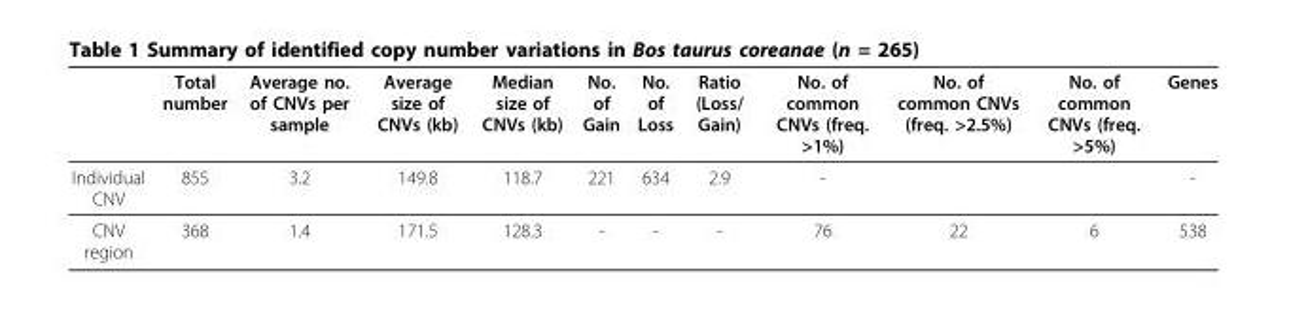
<table><thead><tr><td></td><td>Total number</td><td>Average no. of CNVs per sample</td><td>Average size of CNVs (kb)</td><td>Median size of CNVs (kb)</td><td>No. of Gain</td><td>No. of Loss</td><td>Ratio (Loss/ Gain)</td><td>No. of common CNVs (freq. &gt;1%)</td><td>No. of common CNVs (freq. &gt;2.5%)</td><td>No. of common CNVs (freq. &gt;5%)</td><td>Genes</td></tr></thead><tbody><tr><td>Individual CNV</td><td>855</td><td>3.2</td><td>149.8</td><td>118.7</td><td>221</td><td>634</td><td>2.9</td><td>-</td><td></td><td></td><td>-</td></tr><tr><td>CNV region</td><td>368</td><td>1.4</td><td>171.5</td><td>128.3</td><td>-</td><td>-</td><td>-</td><td>76</td><td>22</td><td>6</td><td>538</td></tr></tbody></table>